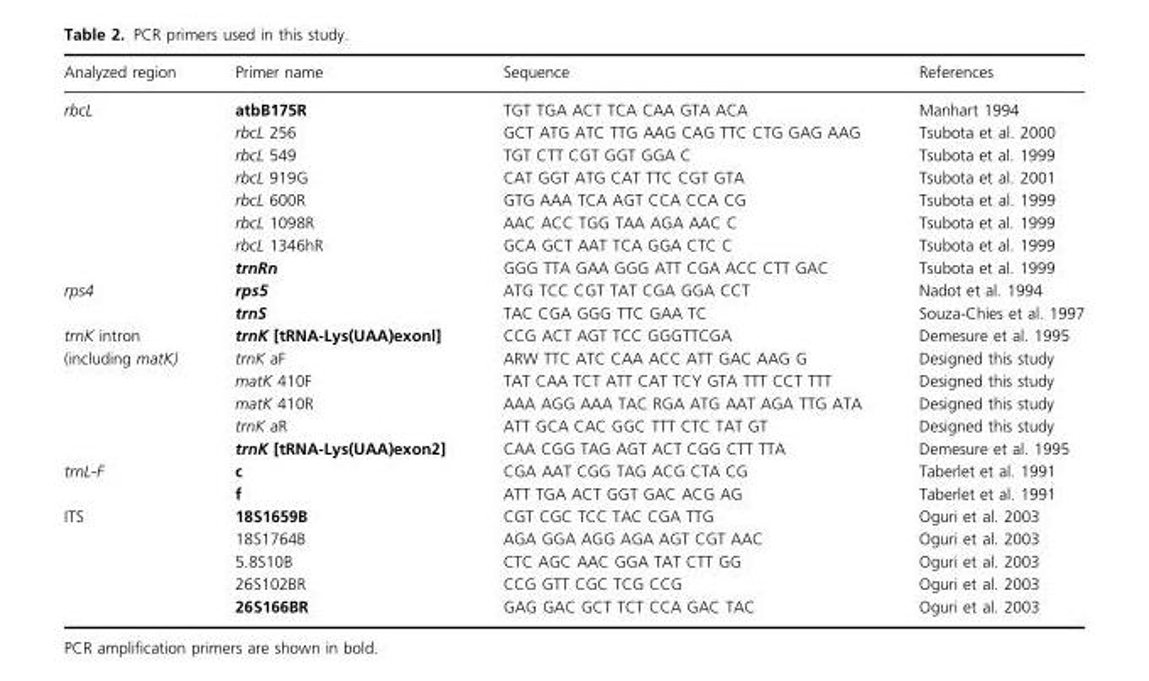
<table><thead><tr><td>Analyzed region</td><td>Primer name</td><td>Sequence</td><td>References</td></tr></thead><tbody><tr><td rowspan="8">rbcL</td><td>atbB175R</td><td>TGT TGA ACT TCA CAA GTA ACA</td><td>Manhart 1994</td></tr><tr><td>rbcL 256</td><td>GCT ATG ATC TTG AAG CAG TTC CTG GAG AAG</td><td>Tsubota et al. 2000</td></tr><tr><td>rbcL 549</td><td>TGT CTT CGT GGT GGA C</td><td>Tsubota et al. 1999</td></tr><tr><td>rbcL 919G</td><td>CAT GGT ATG CAT TTC CGT GTA</td><td>Tsubota et al. 2001</td></tr><tr><td>rbcL 600R</td><td>GTG AAA TCA AGT CCA CCA CG</td><td>Tsubota et al. 1999</td></tr><tr><td>rbcL 1098R</td><td>AAC ACC TGG TAA AGA AAC C</td><td>Tsubota et al. 1999</td></tr><tr><td>rbcL 1346hR</td><td>GCA GCT AAT TCA GGA CTC C</td><td>Tsubota et al. 1999</td></tr><tr><td>trnRn</td><td>GGG TTA GAA GGG ATT CGA ACC CTT GAC</td><td>Tsubota et al. 1999</td></tr><tr><td rowspan="2">rps4</td><td>rps5</td><td>ATG TCC CGT TAT CGA GGA CCT</td><td>Nadot et al. 1994</td></tr><tr><td>trnS</td><td>TAC CGA GGG TTC GAA TC</td><td>Souza-Chies et al. 1997</td></tr><tr><td>trnK intron</td><td>trnK [tRNA-Lys(UAA)exonl]</td><td>CCG ACT AGT TCC GGGTTCGA</td><td>Demesure et al. 1995</td></tr><tr><td rowspan="5">(including matK)</td><td>trnK aF</td><td>ARW TTC ATC CAA ACC ATT GAC AAG G</td><td>Designed this study</td></tr><tr><td>matK 410F</td><td>TAT CAA TCT ATT CAT TCY GTA TTT CCT TTT</td><td>Designed this study</td></tr><tr><td>matK 410R</td><td>AAA AGG AAA TAC RGA ATG AAT AGA TTG ATA</td><td>Designed this study</td></tr><tr><td>trnK aR</td><td>ATT GCA CAC GGC TTT CTC TAT GT</td><td>Designed this study</td></tr><tr><td>trnK [tRNA-Lys(UAA)exon2]</td><td>CAA CGG TAG AGT ACT CGG CTT TTA</td><td>Demesure et al. 1995</td></tr><tr><td rowspan="2">trnL-F</td><td>c</td><td>CGA AAT CGG TAG ACG CTA CG</td><td>Taberlet et al. 1991</td></tr><tr><td>f</td><td>ATT TGA ACT GGT GAC ACG AG</td><td>Taberlet et al. 1991</td></tr><tr><td rowspan="5">ITS</td><td>18S1659B</td><td>CGT CGC TCC TAC CGA TTG</td><td>Oguri et al. 2003</td></tr><tr><td>18S1764B</td><td>AGA GGA AGG AGA AGT CGT AAC</td><td>Oguri et al. 2003</td></tr><tr><td>5.8S10B</td><td>CTC AGC AAC GGA TAT CTT GG</td><td>Oguri et al. 2003</td></tr><tr><td>26S102BR</td><td>CCG GTT CGC TCG CCG</td><td>Oguri et al. 2003</td></tr><tr><td>26S166BR</td><td>GAG GAC GCT TCT CCA GAC TAC</td><td>Oguri et al. 2003</td></tr></tbody></table>